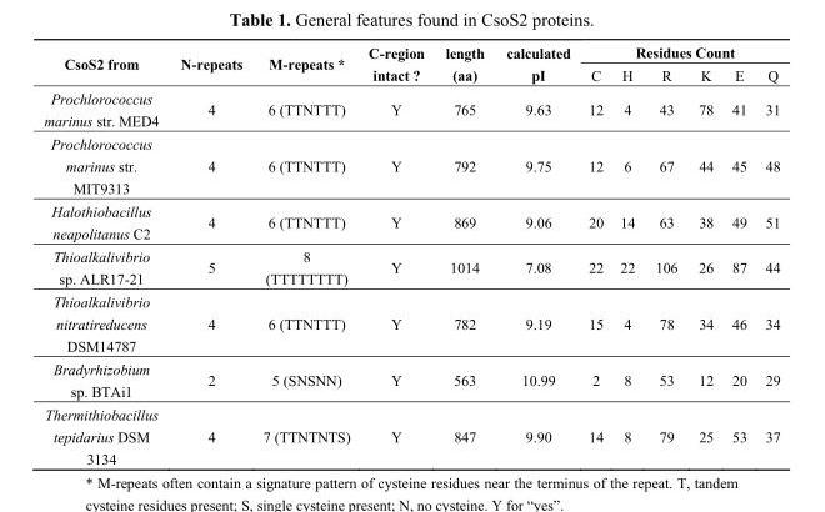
<table><thead><tr><td rowspan="2">CsoS2 from</td><td rowspan="2">N-repeats</td><td rowspan="2">M-repeats *</td><td rowspan="2">C-region intact ?</td><td rowspan="2">length (aa)</td><td rowspan="2">calculated pI</td><td colspan="6">Residues Count</td></tr><tr><td>C</td><td>H</td><td>R</td><td>K</td><td>E</td><td>Q</td></tr></thead><tbody><tr><td>Prochlorococcus marinus str. MED4</td><td>4</td><td>6 (TTNTTT)</td><td>Y</td><td>765</td><td>9.63</td><td>12</td><td>4</td><td>43</td><td>78</td><td>41</td><td>31</td></tr><tr><td>Prochlorococcus marinus str. MIT9313</td><td>4</td><td>6 (TTNTTT)</td><td>Y</td><td>792</td><td>9.75</td><td>12</td><td>6</td><td>67</td><td>44</td><td>45</td><td>48</td></tr><tr><td>Halothiobacillus neapolitanus C2</td><td>4</td><td>6 (TTNTTT)</td><td>Y</td><td>869</td><td>9.06</td><td>20</td><td>14</td><td>63</td><td>38</td><td>49</td><td>51</td></tr><tr><td>Thioalkalivibrio sp. ALR17-21</td><td>5</td><td>8 (TTTTTTTT)</td><td>Y</td><td>1014</td><td>7.08</td><td>22</td><td>22</td><td>106</td><td>26</td><td>87</td><td>44</td></tr><tr><td>Thioalkalivibrio nitratireducens DSM14787</td><td>4</td><td>6 (TTNTTT)</td><td>Y</td><td>782</td><td>9.19</td><td>15</td><td>4</td><td>78</td><td>34</td><td>46</td><td>34</td></tr><tr><td>Bradyrhizobium sp. BTAi1</td><td>2</td><td>5 (SNSNN)</td><td>Y</td><td>563</td><td>10.99</td><td>2</td><td>8</td><td>53</td><td>12</td><td>20</td><td>29</td></tr><tr><td>Thermithiobacillus tepidarius DSM 3134</td><td>4</td><td>7 (TTNTNTS)</td><td>Y</td><td>847</td><td>9.90</td><td>14</td><td>8</td><td>79</td><td>25</td><td>53</td><td>37</td></tr></tbody></table>